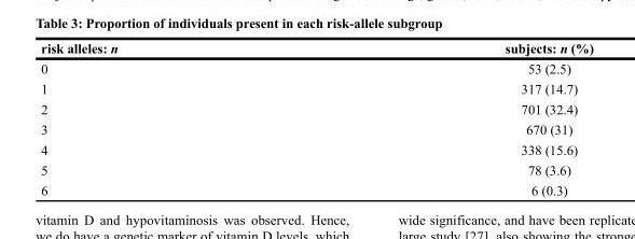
<table><thead><tr><td>risk alleles: n</td><td>subjects: n (%)</td></tr></thead><tbody><tr><td>0</td><td>53 (2.5)</td></tr><tr><td>1</td><td>317 (14.7)</td></tr><tr><td>2</td><td>701 (32.4)</td></tr><tr><td>3</td><td>670 (31)</td></tr><tr><td>4</td><td>338 (15.6)</td></tr><tr><td>5</td><td>78 (3.6)</td></tr><tr><td>6</td><td>6 (0.3)</td></tr></tbody></table>